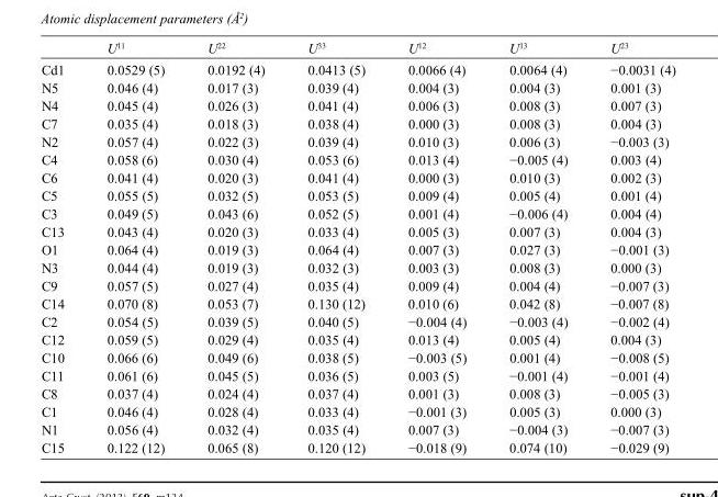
<table><thead><tr><td></td><td>U<sup>11</sup></td><td>U<sup>22</sup></td><td>U<sup>33</sup></td><td>U<sup>12</sup></td><td>U<sup>13</sup></td><td>U<sup>23</sup></td></tr></thead><tbody><tr><td>Cd1</td><td>0.0529 (5)</td><td>0.0192 (4)</td><td>0.0413 (5)</td><td>0.0066 (4)</td><td>0.0064 (4)</td><td>−0.0031 (4)</td></tr><tr><td>N5</td><td>0.046 (4)</td><td>0.017 (3)</td><td>0.039 (4)</td><td>0.004 (3)</td><td>0.004 (3)</td><td>0.001 (3)</td></tr><tr><td>N4</td><td>0.045 (4)</td><td>0.026 (3)</td><td>0.041 (4)</td><td>0.006 (3)</td><td>0.008 (3)</td><td>0.007 (3)</td></tr><tr><td>C7</td><td>0.035 (4)</td><td>0.018 (3)</td><td>0.038 (4)</td><td>0.000 (3)</td><td>0.008 (3)</td><td>0.004 (3)</td></tr><tr><td>N2</td><td>0.057 (4)</td><td>0.022 (3)</td><td>0.039 (4)</td><td>0.010 (3)</td><td>0.006 (3)</td><td>−0.003 (3)</td></tr><tr><td>C4</td><td>0.058 (6)</td><td>0.030 (4)</td><td>0.053 (6)</td><td>0.013 (4)</td><td>−0.005 (4)</td><td>0.003 (4)</td></tr><tr><td>C6</td><td>0.041 (4)</td><td>0.020 (3)</td><td>0.041 (4)</td><td>0.000 (3)</td><td>0.010 (3)</td><td>0.002 (3)</td></tr><tr><td>C5</td><td>0.055 (5)</td><td>0.032 (5)</td><td>0.053 (5)</td><td>0.009 (4)</td><td>0.005 (4)</td><td>0.001 (4)</td></tr><tr><td>C3</td><td>0.049 (5)</td><td>0.043 (6)</td><td>0.052 (5)</td><td>0.001 (4)</td><td>−0.006 (4)</td><td>0.004 (4)</td></tr><tr><td>C13</td><td>0.043 (4)</td><td>0.020 (3)</td><td>0.033 (4)</td><td>0.005 (3)</td><td>0.007 (3)</td><td>0.004 (3)</td></tr><tr><td>O1</td><td>0.064 (4)</td><td>0.019 (3)</td><td>0.064 (4)</td><td>0.007 (3)</td><td>0.027 (3)</td><td>−0.001 (3)</td></tr><tr><td>N3</td><td>0.044 (4)</td><td>0.019 (3)</td><td>0.032 (3)</td><td>0.003 (3)</td><td>0.008 (3)</td><td>0.000 (3)</td></tr><tr><td>C9</td><td>0.057 (5)</td><td>0.027 (4)</td><td>0.035 (4)</td><td>0.009 (4)</td><td>0.004 (4)</td><td>−0.007 (3)</td></tr><tr><td>C14</td><td>0.070 (8)</td><td>0.053 (7)</td><td>0.130 (12)</td><td>0.010 (6)</td><td>0.042 (8)</td><td>−0.007 (8)</td></tr><tr><td>C2</td><td>0.054 (5)</td><td>0.039 (5)</td><td>0.040 (5)</td><td>−0.004 (4)</td><td>−0.003 (4)</td><td>−0.002 (4)</td></tr><tr><td>C12</td><td>0.059 (5)</td><td>0.029 (4)</td><td>0.035 (4)</td><td>0.013 (4)</td><td>0.005 (4)</td><td>0.004 (3)</td></tr><tr><td>C10</td><td>0.066 (6)</td><td>0.049 (6)</td><td>0.038 (5)</td><td>−0.003 (5)</td><td>0.001 (4)</td><td>−0.008 (5)</td></tr><tr><td>C11</td><td>0.061 (6)</td><td>0.045 (5)</td><td>0.036 (5)</td><td>0.003 (5)</td><td>−0.001 (4)</td><td>−0.001 (4)</td></tr><tr><td>C8</td><td>0.037 (4)</td><td>0.024 (4)</td><td>0.037 (4)</td><td>0.001 (3)</td><td>0.008 (3)</td><td>−0.005 (3)</td></tr><tr><td>C1</td><td>0.046 (4)</td><td>0.028 (4)</td><td>0.033 (4)</td><td>−0.001 (3)</td><td>0.005 (3)</td><td>0.000 (3)</td></tr><tr><td>N1</td><td>0.056 (4)</td><td>0.032 (4)</td><td>0.035 (4)</td><td>0.007 (3)</td><td>−0.004 (3)</td><td>−0.007 (3)</td></tr><tr><td>C15</td><td>0.122 (12)</td><td>0.065 (8)</td><td>0.120 (12)</td><td>−0.018 (9)</td><td>0.074 (10)</td><td>−0.029 (9)</td></tr></tbody></table>